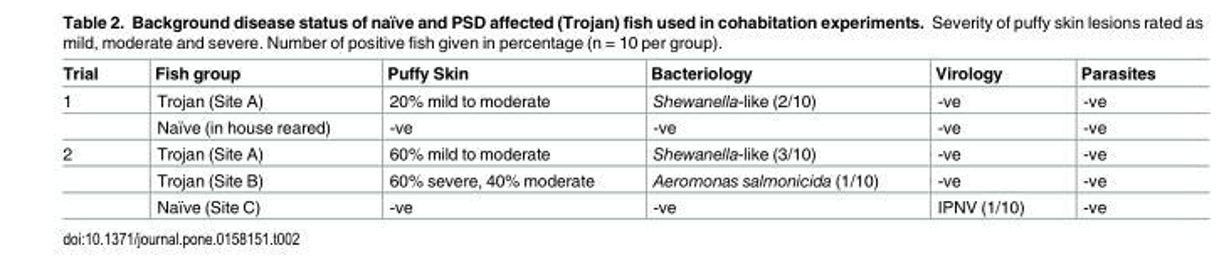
<table><thead><tr><td>Trial</td><td>Fish group</td><td>Puffy Skin</td><td>Bacteriology</td><td>Virology</td><td>Parasites</td></tr></thead><tbody><tr><td rowspan="2">1</td><td>Trojan (Site A)</td><td>20% mild to moderate</td><td>Shewanella-like (2/10)</td><td>-ve</td><td>-ve</td></tr><tr><td>Naïve (in house reared)</td><td>-ve</td><td>-ve</td><td>-ve</td><td>-ve</td></tr><tr><td rowspan="3">2</td><td>Trojan (Site A)</td><td>60% mild to moderate</td><td>Shewanella-like (3/10)</td><td>-ve</td><td>-ve</td></tr><tr><td>Trojan (Site B)</td><td>60% severe, 40% moderate</td><td>Aeromonas salmonicida (1/10)</td><td>-ve</td><td>-ve</td></tr><tr><td>Naïve (Site C)</td><td>-ve</td><td>-ve</td><td>IPNV (1/10)</td><td>-ve</td></tr></tbody></table>